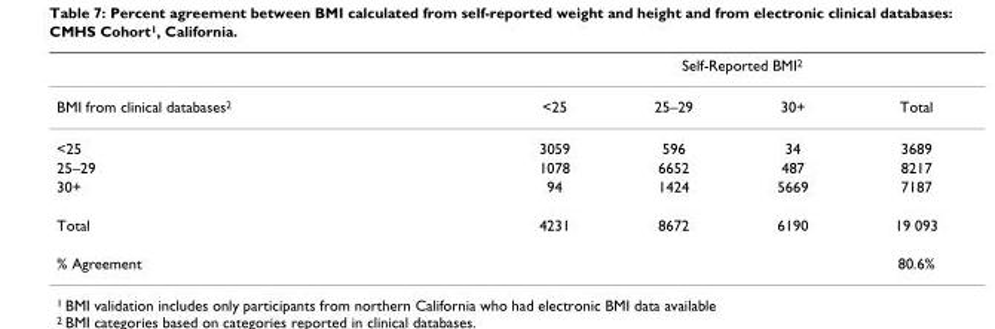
<table><thead><tr><td rowspan="2">BMI from clinical databases2</td><td colspan="4">Self-Reported BMI2</td></tr><tr><td>&lt;25</td><td>25–29</td><td>30+</td><td>Total</td></tr></thead><tbody><tr><td>&lt;25</td><td>3059</td><td>596</td><td>34</td><td>3689</td></tr><tr><td>25–29</td><td>1078</td><td>6652</td><td>487</td><td>8217</td></tr><tr><td>30+</td><td>94</td><td>1424</td><td>5669</td><td>7187</td></tr><tr><td>Total</td><td>4231</td><td>8672</td><td>6190</td><td>19 093</td></tr><tr><td>% Agreement</td><td></td><td></td><td></td><td>80.6%</td></tr></tbody></table>